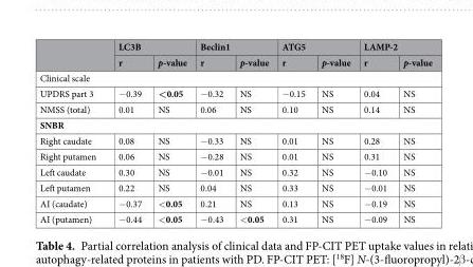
<table><thead><tr><td rowspan="2"></td><td colspan="2">LC3B</td><td colspan="2">Beclin1</td><td colspan="2">ATG5</td><td colspan="2">LAMP-2</td></tr><tr><td>r</td><td>p-value</td><td>r</td><td>p-value</td><td>r</td><td>p-value</td><td>r</td><td>p-value</td></tr></thead><tbody><tr><td colspan="9">Clinical scale</td></tr><tr><td>UPDRS part 3</td><td>−0.39</td><td>&lt;0.05</td><td>−0.32</td><td>NS</td><td>−0.15</td><td>NS</td><td>0.04</td><td>NS</td></tr><tr><td>NMSS (total)</td><td>0.01</td><td>NS</td><td>0.06</td><td>NS</td><td>0.10</td><td>NS</td><td>0.14</td><td>NS</td></tr><tr><td colspan="9">SNBR</td></tr><tr><td>Right caudate</td><td>0.08</td><td>NS</td><td>−0.33</td><td>NS</td><td>0.01</td><td>NS</td><td>0.28</td><td>NS</td></tr><tr><td>Right putamen</td><td>0.06</td><td>NS</td><td>−0.28</td><td>NS</td><td>0.01</td><td>NS</td><td>0.31</td><td>NS</td></tr><tr><td>Left caudate</td><td>0.30</td><td>NS</td><td>−0.01</td><td>NS</td><td>0.32</td><td>NS</td><td>−0.10</td><td>NS</td></tr><tr><td>Left putamen</td><td>0.22</td><td>NS</td><td>0.04</td><td>NS</td><td>0.33</td><td>NS</td><td>−0.01</td><td>NS</td></tr><tr><td>AI (caudate)</td><td>−0.37</td><td>&lt;0.05</td><td>0.21</td><td>NS</td><td>0.13</td><td>NS</td><td>−0.19</td><td>NS</td></tr><tr><td>AI (putamen)</td><td>−0.44</td><td>&lt;0.05</td><td>−0.43</td><td>&lt;0.05</td><td>0.31</td><td>NS</td><td>−0.09</td><td>NS</td></tr></tbody></table>